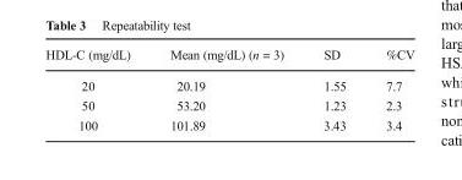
<table><thead><tr><td>HDL-C (mg/dL)</td><td>Mean (mg/dL) (n = 3)</td><td>SD</td><td>%CV</td></tr></thead><tbody><tr><td>20</td><td>20.19</td><td>1.55</td><td>7.7</td></tr><tr><td>50</td><td>53.20</td><td>1.23</td><td>2.3</td></tr><tr><td>100</td><td>101.89</td><td>3.43</td><td>3.4</td></tr></tbody></table>